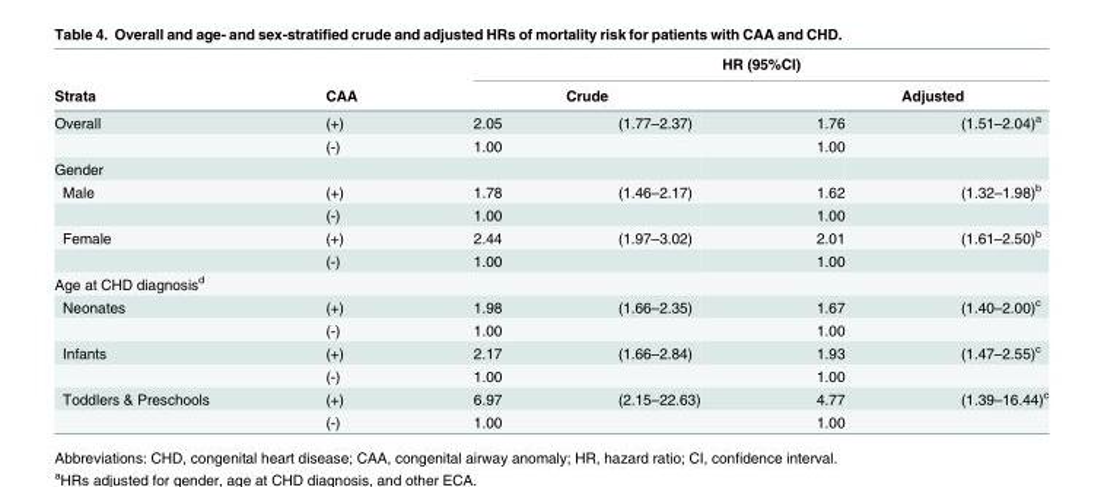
<table><thead><tr><td rowspan="3">Strata Overall</td><td rowspan="3">CAA (+)</td><td colspan="4">HR (95%CI)</td></tr><tr><td colspan="2">Crude</td><td colspan="2">Adjusted</td></tr><tr><td>2.05</td><td>(1.77–2.37)</td><td>1.76</td><td>(1.51–2.04)<sup>a</sup></td></tr></thead><tbody><tr><td></td><td>(-)</td><td>1.00</td><td></td><td>1.00</td><td></td></tr><tr><td colspan="6">Gender</td></tr><tr><td rowspan="2">Male</td><td>(+)</td><td>1.78</td><td>(1.46–2.17)</td><td>1.62</td><td>(1.32–1.98)<sup>b</sup></td></tr><tr><td>(-)</td><td>1.00</td><td></td><td>1.00</td><td></td></tr><tr><td rowspan="2">Female</td><td>(+)</td><td>2.44</td><td>(1.97–3.02)</td><td>2.01</td><td>(1.61–2.50)<sup>b</sup></td></tr><tr><td>(-)</td><td>1.00</td><td></td><td>1.00</td><td></td></tr><tr><td colspan="6">Age at CHD diagnosis<sup>d</sup></td></tr><tr><td rowspan="2">Neonates</td><td>(+)</td><td>1.98</td><td>(1.66–2.35)</td><td>1.67</td><td>(1.40–2.00)<sup>c</sup></td></tr><tr><td>(-)</td><td>1.00</td><td></td><td>1.00</td><td></td></tr><tr><td rowspan="2">Infants</td><td>(+)</td><td>2.17</td><td>(1.66–2.84)</td><td>1.93</td><td>(1.47–2.55)<sup>c</sup></td></tr><tr><td>(-)</td><td>1.00</td><td></td><td>1.00</td><td></td></tr><tr><td rowspan="2">Toddlers &amp; Preschools</td><td>(+)</td><td>6.97</td><td>(2.15–22.63)</td><td>4.77</td><td>(1.39–16.44)<sup>c</sup></td></tr><tr><td>(-)</td><td>1.00</td><td></td><td>1.00</td><td></td></tr></tbody></table>